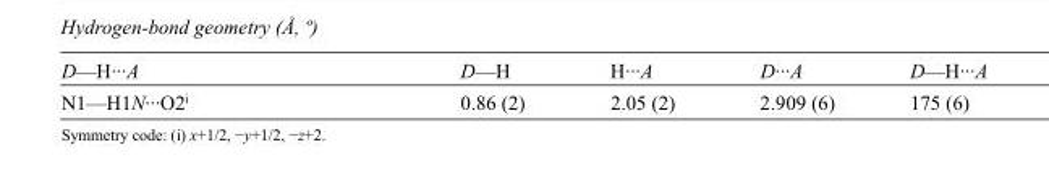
<table><tbody><tr><td>D—H···A</td><td>D—H</td><td>H···A</td><td>D···A</td><td>D—H···A</td></tr><tr><td>N1—H1N···O2<sup>i</sup></td><td>0.86 (2)</td><td>2.05 (2)</td><td>2.909 (6)</td><td>175 (6)</td></tr></tbody></table>